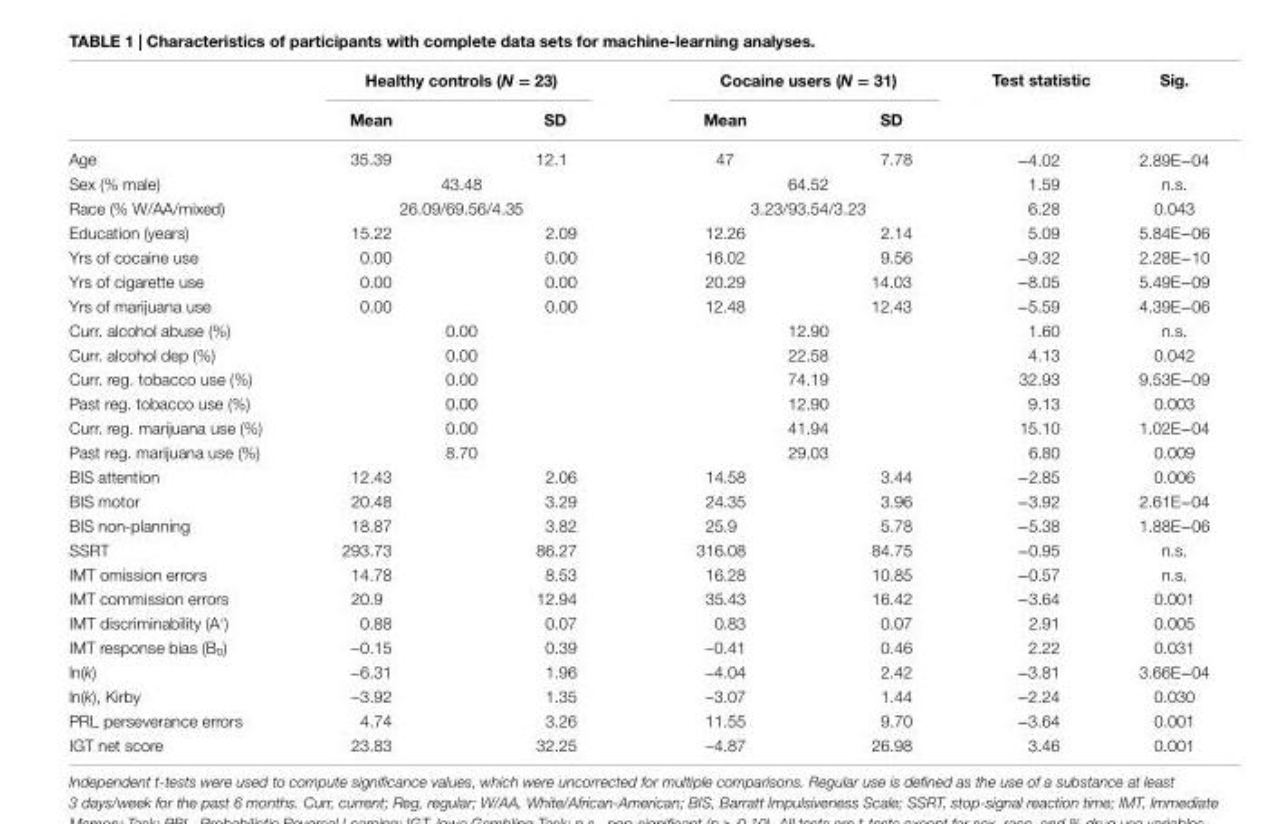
<table><thead><tr><td rowspan="2"></td><td colspan="2">healthy controls (N = 23)</td><td colspan="2">cocaine users (N = 31)</td><td rowspan="2">Test statistic</td><td rowspan="2">sig.</td></tr><tr><td>Mean</td><td>sD</td><td>Mean</td><td>sD</td></tr></thead><tbody><tr><td>Age</td><td>35.39</td><td>12.1</td><td>47</td><td>7.78</td><td>−4.02</td><td>2.89E−04</td></tr><tr><td>Sex (% male)</td><td colspan="2">43.48</td><td colspan="2">64.52</td><td>1.59</td><td>n.s.</td></tr><tr><td>Race (% W/AA/mixed)</td><td colspan="2">26.09/69.56/4.35</td><td colspan="2">3.23/93.54/3.23</td><td>6.28</td><td>0.043</td></tr><tr><td>Education (years)</td><td>15.22</td><td>2.09</td><td>12.26</td><td>2.14</td><td>5.09</td><td>5.84E−06</td></tr><tr><td>Yrs of cocaine use</td><td>0.00</td><td>0.00</td><td>16.02</td><td>9.56</td><td>−9.32</td><td>2.28E−10</td></tr><tr><td>Yrs of cigarette use</td><td>0.00</td><td>0.00</td><td>20.29</td><td>14.03</td><td>−8.05</td><td>5.49E−09</td></tr><tr><td>Yrs of marijuana use</td><td>0.00</td><td>0.00</td><td>12.48</td><td>12.43</td><td>−5.59</td><td>4.39E−06</td></tr><tr><td>Curr. alcohol abuse (%)</td><td colspan="2">0.00</td><td colspan="2">12.90</td><td>1.60</td><td>n.s.</td></tr><tr><td>Curr. alcohol dep (%)</td><td colspan="2">0.00</td><td colspan="2">22.58</td><td>4.13</td><td>0.042</td></tr><tr><td>Curr. reg. tobacco use (%)</td><td colspan="2">0.00</td><td colspan="2">74.19</td><td>32.93</td><td>9.53E−09</td></tr><tr><td>Past reg. tobacco use (%)</td><td colspan="2">0.00</td><td colspan="2">12.90</td><td>9.13</td><td>0.003</td></tr><tr><td>Curr. reg. marijuana use (%)</td><td colspan="2">0.00</td><td colspan="2">41.94</td><td>15.10</td><td>1.02E−04</td></tr><tr><td>Past reg. marijuana use (%)</td><td colspan="2">8.70</td><td colspan="2">29.03</td><td>6.80</td><td>0.009</td></tr><tr><td>BIS attention</td><td>12.43</td><td>2.06</td><td>14.58</td><td>3.44</td><td>−2.85</td><td>0.006</td></tr><tr><td>BIS motor</td><td>20.48</td><td>3.29</td><td>24.35</td><td>3.96</td><td>−3.92</td><td>2.61E−04</td></tr><tr><td>BIS non-planning</td><td>18.87</td><td>3.82</td><td>25.9</td><td>5.78</td><td>−5.38</td><td>1.88E−06</td></tr><tr><td>SSRT</td><td>293.73</td><td>86.27</td><td>316.08</td><td>84.75</td><td>−0.95</td><td>n.s.</td></tr><tr><td>IMT omission errors</td><td>14.78</td><td>8.53</td><td>16.28</td><td>10.85</td><td>−0.57</td><td>n.s.</td></tr><tr><td>IMT commission errors</td><td>20.9</td><td>12.94</td><td>35.43</td><td>16.42</td><td>−3.64</td><td>0.001</td></tr><tr><td>IMT discriminability (A′)</td><td>0.88</td><td>0.07</td><td>0.83</td><td>0.07</td><td>2.91</td><td>0.005</td></tr><tr><td>IMT response bias (B<sub>D</sub>)</td><td>−0.15</td><td>0.39</td><td>−0.41</td><td>0.46</td><td>2.22</td><td>0.031</td></tr><tr><td>ln(k)</td><td>−6.31</td><td>1.96</td><td>−4.04</td><td>2.42</td><td>−3.81</td><td>3.66E−04</td></tr><tr><td>ln(k), Kirby</td><td>−3.92</td><td>1.35</td><td>−3.07</td><td>1.44</td><td>−2.24</td><td>0.030</td></tr><tr><td>PRL perseverance errors</td><td>4.74</td><td>3.26</td><td>11.55</td><td>9.70</td><td>−3.64</td><td>0.001</td></tr><tr><td>IGT net score</td><td>23.83</td><td>32.25</td><td>−4.87</td><td>26.98</td><td>3.46</td><td>0.001</td></tr></tbody></table>